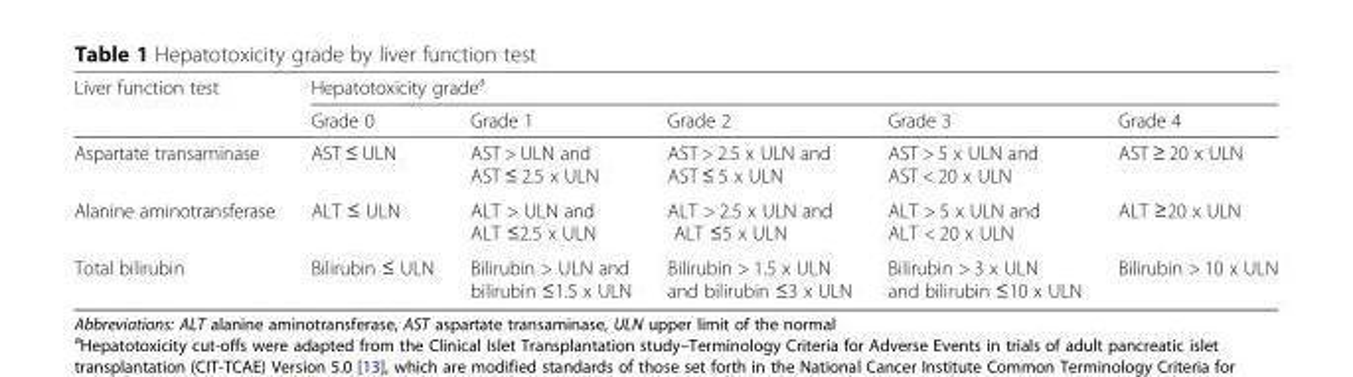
<table><thead><tr><td rowspan="2">Liver function test</td><td colspan="5">Hepatotoxicity grade<sup>a</sup></td></tr><tr><td>Grade 0</td><td>Grade 1</td><td>Grade 2</td><td>Grade 3</td><td>Grade 4</td></tr></thead><tbody><tr><td>Aspartate transaminase</td><td>AST ≤ ULN</td><td>AST &gt; ULN and AST ≤ 2.5 x ULN</td><td>AST &gt; 2.5 x ULN and AST ≤ 5 x ULN</td><td>AST &gt; 5 x ULN and AST &lt; 20 x ULN</td><td>AST ≥ 20 x ULN</td></tr><tr><td>Alanine aminotransferase</td><td>ALT ≤ ULN</td><td>ALT &gt; ULN and ALT ≤2.5 x ULN</td><td>ALT &gt; 2.5 x ULN and ALT ≤5 x ULN</td><td>ALT &gt; 5 x ULN and ALT &lt; 20 x ULN</td><td>ALT ≥20 x ULN</td></tr><tr><td>Total bilirubin</td><td>Bilirubin ≤ ULN</td><td>Bilirubin &gt; ULN and bilirubin ≤1.5 x ULN</td><td>Bilirubin &gt; 1.5 x ULN and bilirubin ≤3 x ULN</td><td>Bilirubin &gt; 3 x ULN and bilirubin ≤10 x ULN</td><td>Bilirubin &gt; 10 x ULN</td></tr></tbody></table>